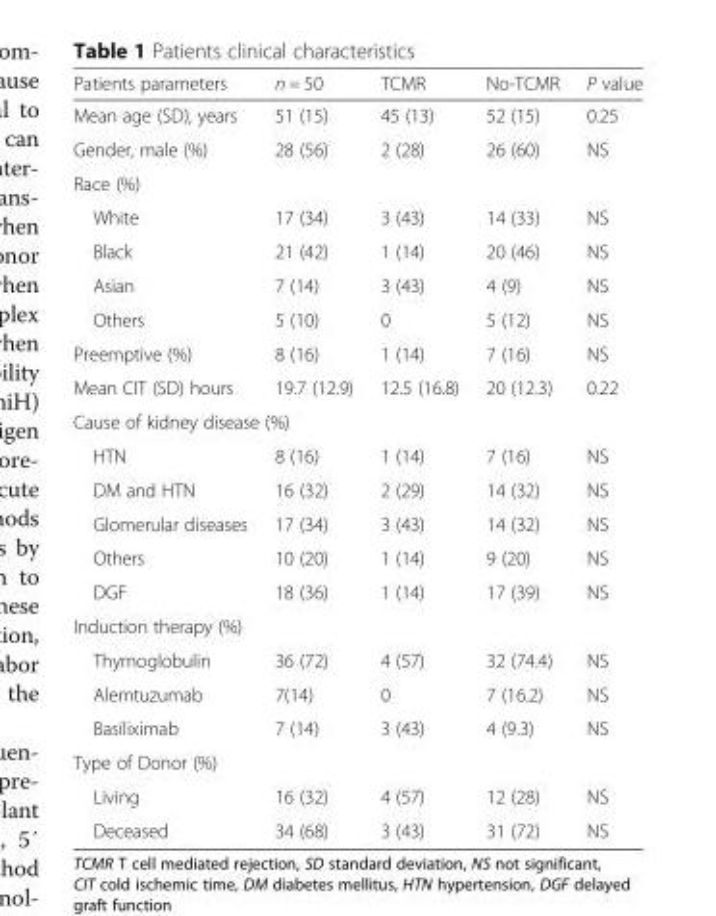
<table><thead><tr><td>Patients parameters</td><td>n = 50</td><td>TCMR</td><td>No-TCMR</td><td>P value</td></tr></thead><tbody><tr><td>Mean age (SD), years</td><td>51 (15)</td><td>45 (13)</td><td>52 (15)</td><td>0.25</td></tr><tr><td>Gender, male (%)</td><td>28 (56)</td><td>2 (28)</td><td>26 (60)</td><td>NS</td></tr><tr><td colspan="5">Race (%)</td></tr><tr><td>White</td><td>17 (34)</td><td>3 (43)</td><td>14 (33)</td><td>NS</td></tr><tr><td>Black</td><td>21 (42)</td><td>1 (14)</td><td>20 (46)</td><td>NS</td></tr><tr><td>Asian</td><td>7 (14)</td><td>3 (43)</td><td>4 (9)</td><td>NS</td></tr><tr><td>Others</td><td>5 (10)</td><td>0</td><td>5 (12)</td><td>NS</td></tr><tr><td>Preemptive (%)</td><td>8 (16)</td><td>1 (14)</td><td>7 (16)</td><td>NS</td></tr><tr><td>Mean CIT (SD) hours</td><td>19.7 (12.9)</td><td>12.5 (16.8)</td><td>20 (12.3)</td><td>0.22</td></tr><tr><td colspan="5">Cause of kidney disease (%)</td></tr><tr><td>HTN</td><td>8 (16)</td><td>1 (14)</td><td>7 (16)</td><td>NS</td></tr><tr><td>DM and HTN</td><td>16 (32)</td><td>2 (29)</td><td>14 (32)</td><td>NS</td></tr><tr><td>Glomerular diseases</td><td>17 (34)</td><td>3 (43)</td><td>14 (32)</td><td>NS</td></tr><tr><td>Others</td><td>10 (20)</td><td>1 (14)</td><td>9 (20)</td><td>NS</td></tr><tr><td>DGF</td><td>18 (36)</td><td>1 (14)</td><td>17 (39)</td><td>NS</td></tr><tr><td colspan="5">Induction therapy (%)</td></tr><tr><td>Thymoglobulin</td><td>36 (72)</td><td>4 (57)</td><td>32 (74.4)</td><td>NS</td></tr><tr><td>Alemtuzumab</td><td>7(14)</td><td>0</td><td>7 (16.2)</td><td>NS</td></tr><tr><td>Basiliximab</td><td>7 (14)</td><td>3 (43)</td><td>4 (9.3)</td><td>NS</td></tr><tr><td colspan="5">Type of Donor (%)</td></tr><tr><td>Living</td><td>16 (32)</td><td>4 (57)</td><td>12 (28)</td><td>NS</td></tr><tr><td>Deceased</td><td>34 (68)</td><td>3 (43)</td><td>31 (72)</td><td>NS</td></tr></tbody></table>